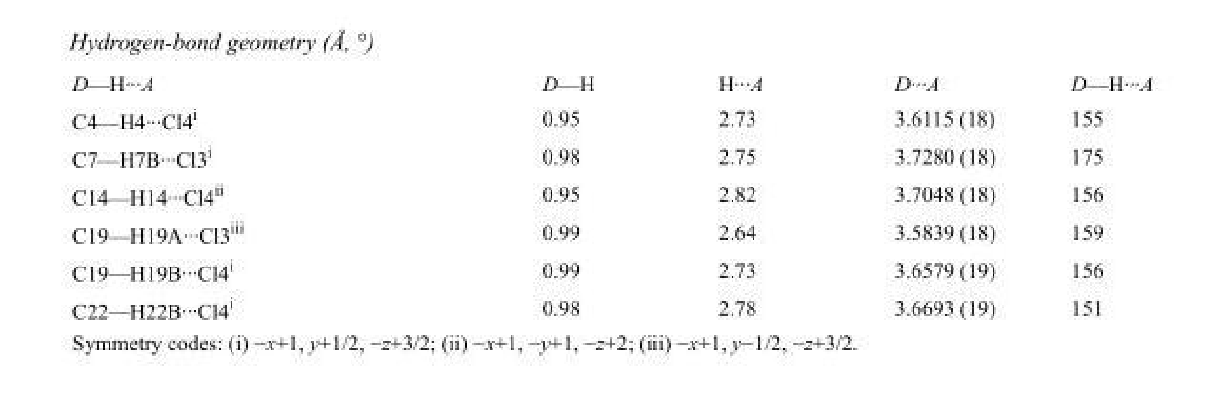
<table><tbody><tr><td>D—H···A</td><td>D—H</td><td>H···A</td><td>D···A</td><td>D—H···A</td></tr><tr><td>C4—H4···Cl4<sup>i</sup></td><td>0.95</td><td>2.73</td><td>3.6115 (18)</td><td>155</td></tr><tr><td>C7—H7B···Cl3<sup>i</sup></td><td>0.98</td><td>2.75</td><td>3.7280 (18)</td><td>175</td></tr><tr><td>C14—H14···Cl4<sup>ii</sup></td><td>0.95</td><td>2.82</td><td>3.7048 (18)</td><td>156</td></tr><tr><td>C19—H19A···Cl3<sup>iii</sup></td><td>0.99</td><td>2.64</td><td>3.5839 (18)</td><td>159</td></tr><tr><td>C19—H19B···Cl4<sup>i</sup></td><td>0.99</td><td>2.73</td><td>3.6579 (19)</td><td>156</td></tr><tr><td>C22—H22B···Cl4<sup>i</sup></td><td>0.98</td><td>2.78</td><td>3.6693 (19)</td><td>151</td></tr></tbody></table>